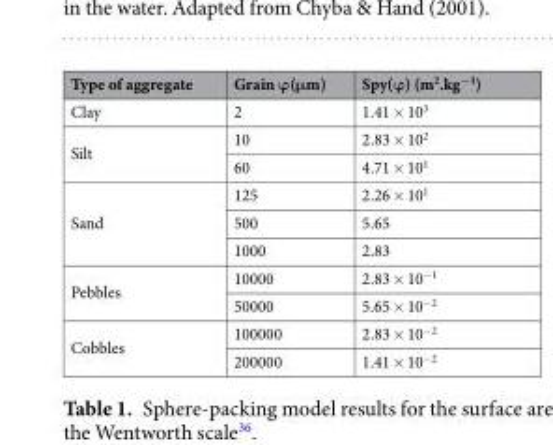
<table><thead><tr><td>Type of aggregate</td><td>Grain ϕ(μm)</td><td>Spy(ϕ) (m<sup>2</sup>.kg<sup>−1</sup>)</td></tr></thead><tbody><tr><td>Clay</td><td>2</td><td>1.41 × 10<sup>3</sup></td></tr><tr><td rowspan="2">Silt</td><td>10</td><td>2.83 × 10<sup>2</sup></td></tr><tr><td>60</td><td>4.71 × 10<sup>1</sup></td></tr><tr><td rowspan="3">Sand</td><td>125</td><td>2.26 × 10<sup>1</sup></td></tr><tr><td>500</td><td>5.65</td></tr><tr><td>1000</td><td>2.83</td></tr><tr><td rowspan="2">Pebbles</td><td>10000</td><td>2.83 × 10<sup>−1</sup></td></tr><tr><td>50000</td><td>5.65 × 10<sup>−2</sup></td></tr><tr><td rowspan="2">Cobbles</td><td>100000</td><td>2.83 × 10<sup>−2</sup></td></tr><tr><td>200000</td><td>1.41 × 10<sup>−2</sup></td></tr></tbody></table>